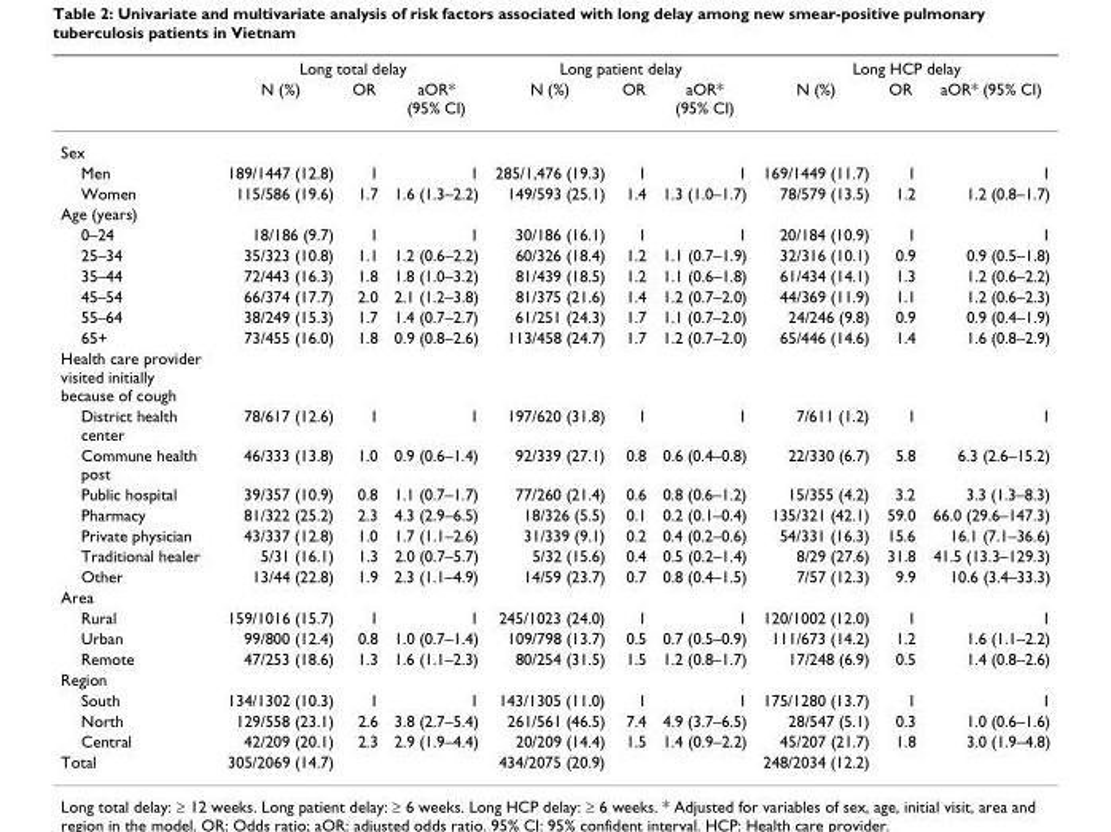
<table><thead><tr><td rowspan="2"></td><td colspan="3">Long total delay</td><td colspan="3">Long patient delay</td><td colspan="3">Long HCP delay</td></tr><tr><td>N (%)</td><td>OR</td><td>aOR* (95% CI)</td><td>N (%)</td><td>OR</td><td>aOR* (95% CI)</td><td>N (%)</td><td>OR</td><td>aOR* (95% CI)</td></tr></thead><tbody><tr><td colspan="10">Sex</td></tr><tr><td>Men</td><td>189/1447 (12.8)</td><td>1</td><td>1</td><td>285/1,476 (19.3)</td><td>1</td><td>1</td><td>169/1449 (11.7)</td><td>1</td><td>1</td></tr><tr><td>Women</td><td>115/586 (19.6)</td><td>1.7</td><td>1.6 (1.3–2.2)</td><td>149/593 (25.1)</td><td>1.4</td><td>1.3 (1.0–1.7)</td><td>78/579 (13.5)</td><td>1.2</td><td>1.2 (0.8–1.7)</td></tr><tr><td colspan="10">Age (years)</td></tr><tr><td>0–24</td><td>18/186 (9.7)</td><td>1</td><td>1</td><td>30/186 (16.1)</td><td>1</td><td>1</td><td>20/184 (10.9)</td><td>1</td><td>1</td></tr><tr><td>25–34</td><td>35/323 (10.8)</td><td>1.1</td><td>1.2 (0.6–2.2)</td><td>60/326 (18.4)</td><td>1.2</td><td>1.1 (0.7–1.9)</td><td>32/316 (10.1)</td><td>0.9</td><td>0.9 (0.5–1.8)</td></tr><tr><td>35–44</td><td>72/443 (16.3)</td><td>1.8</td><td>1.8 (1.0–3.2)</td><td>81/439 (18.5)</td><td>1.2</td><td>1.1 (0.6–1.8)</td><td>61/434 (14.1)</td><td>1.3</td><td>1.2 (0.6–2.2)</td></tr><tr><td>45–54</td><td>66/374 (17.7)</td><td>2.0</td><td>2.1 (1.2–3.8)</td><td>81/375 (21.6)</td><td>1.4</td><td>1.2 (0.7–2.0)</td><td>44/369 (11.9)</td><td>1.1</td><td>1.2 (0.6–2.3)</td></tr><tr><td>55–64</td><td>38/249 (15.3)</td><td>1.7</td><td>1.4 (0.7–2.7)</td><td>61/251 (24.3)</td><td>1.7</td><td>1.1 (0.7–2.0)</td><td>24/246 (9.8)</td><td>0.9</td><td>0.9 (0.4–1.9)</td></tr><tr><td>65+</td><td>73/455 (16.0)</td><td>1.8</td><td>0.9 (0.8–2.6)</td><td>113/458 (24.7)</td><td>1.7</td><td>1.2 (0.7–2.0)</td><td>65/446 (14.6)</td><td>1.4</td><td>1.6 (0.8–2.9)</td></tr><tr><td colspan="10">Health care provider visited initially because of cough</td></tr><tr><td>District health center</td><td>78/617 (12.6)</td><td>1</td><td>1</td><td>197/620 (31.8)</td><td>1</td><td>1</td><td>7/611 (1.2)</td><td>1</td><td>1</td></tr><tr><td>Commune health post</td><td>46/333 (13.8)</td><td>1.0</td><td>0.9 (0.6–1.4)</td><td>92/339 (27.1)</td><td>0.8</td><td>0.6 (0.4–0.8)</td><td>22/330 (6.7)</td><td>5.8</td><td>6.3 (2.6–15.2)</td></tr><tr><td>Public hospital</td><td>39/357 (10.9)</td><td>0.8</td><td>1.1 (0.7–1.7)</td><td>77/260 (21.4)</td><td>0.6</td><td>0.8 (0.6–1.2)</td><td>15/355 (4.2)</td><td>3.2</td><td>3.3 (1.3–8.3)</td></tr><tr><td>Pharmacy</td><td>81/322 (25.2)</td><td>2.3</td><td>4.3 (2.9–6.5)</td><td>18/326 (5.5)</td><td>0.1</td><td>0.2 (0.1–0.4)</td><td>135/321 (42.1)</td><td>59.0</td><td>66.0 (29.6–147.3)</td></tr><tr><td>Private physician</td><td>43/337 (12.8)</td><td>1.0</td><td>1.7 (1.1–2.6)</td><td>31/339 (9.1)</td><td>0.2</td><td>0.4 (0.2–0.6)</td><td>54/331 (16.3)</td><td>15.6</td><td>16.1 (7.1–36.6)</td></tr><tr><td>Traditional healer</td><td>5/31 (16.1)</td><td>1.3</td><td>2.0 (0.7–5.7)</td><td>5/32 (15.6)</td><td>0.4</td><td>0.5 (0.2–1.4)</td><td>8/29 (27.6)</td><td>31.8</td><td>41.5 (13.3–129.3)</td></tr><tr><td>Other</td><td>13/44 (22.8)</td><td>1.9</td><td>2.3 (1.1–4.9)</td><td>14/59 (23.7)</td><td>0.7</td><td>0.8 (0.4–1.5)</td><td>7/57 (12.3)</td><td>9.9</td><td>10.6 (3.4–33.3)</td></tr><tr><td colspan="10">Area</td></tr><tr><td>Rural</td><td>159/1016 (15.7)</td><td>1</td><td>1</td><td>245/1023 (24.0)</td><td>1</td><td>1</td><td>120/1002 (12.0)</td><td>1</td><td>1</td></tr><tr><td>Urban</td><td>99/800 (12.4)</td><td>0.8</td><td>1.0 (0.7–1.4)</td><td>109/798 (13.7)</td><td>0.5</td><td>0.7 (0.5–0.9)</td><td>111/673 (14.2)</td><td>1.2</td><td>1.6 (1.1–2.2)</td></tr><tr><td>Remote</td><td>47/253 (18.6)</td><td>1.3</td><td>1.6 (1.1–2.3)</td><td>80/254 (31.5)</td><td>1.5</td><td>1.2 (0.8–1.7)</td><td>17/248 (6.9)</td><td>0.5</td><td>1.4 (0.8–2.6)</td></tr><tr><td colspan="10">Region</td></tr><tr><td>South</td><td>134/1302 (10.3)</td><td>1</td><td>1</td><td>143/1305 (11.0)</td><td>1</td><td>1</td><td>175/1280 (13.7)</td><td>1</td><td>1</td></tr><tr><td>North</td><td>129/558 (23.1)</td><td>2.6</td><td>3.8 (2.7–5.4)</td><td>261/561 (46.5)</td><td>7.4</td><td>4.9 (3.7–6.5)</td><td>28/547 (5.1)</td><td>0.3</td><td>1.0 (0.6–1.6)</td></tr><tr><td>Central</td><td>42/209 (20.1)</td><td>2.3</td><td>2.9 (1.9–4.4)</td><td>20/209 (14.4)</td><td>1.5</td><td>1.4 (0.9–2.2)</td><td>45/207 (21.7)</td><td>1.8</td><td>3.0 (1.9–4.8)</td></tr><tr><td>Total</td><td>305/2069 (14.7)</td><td></td><td></td><td>434/2075 (20.9)</td><td></td><td></td><td>248/2034 (12.2)</td><td></td><td></td></tr></tbody></table>